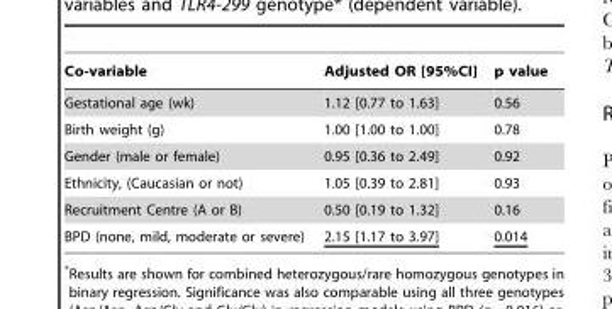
<table><thead><tr><td>Co-variable</td><td>Adjusted OR [95%CI]</td><td>p value</td></tr></thead><tbody><tr><td>Gestational age (wk)</td><td>1.12 [0.77 to 1.63]</td><td>0.56</td></tr><tr><td>Birth weight (g)</td><td>1.00 [1.00 to 1.00]</td><td>0.78</td></tr><tr><td>Gender (male or female)</td><td>0.95 [0.36 to 2.49]</td><td>0.92</td></tr><tr><td>Ethnicity, (Caucasian or not)</td><td>1.05 [0.39 to 2.81]</td><td>0.93</td></tr><tr><td>Recruitment Centre (A or B)</td><td>0.50 [0.19 to 1.32]</td><td>0.16</td></tr><tr><td>BPD (none, mild, moderate or severe)</td><td>2.15 [1.17 to 3.97]</td><td>0.014</td></tr></tbody></table>